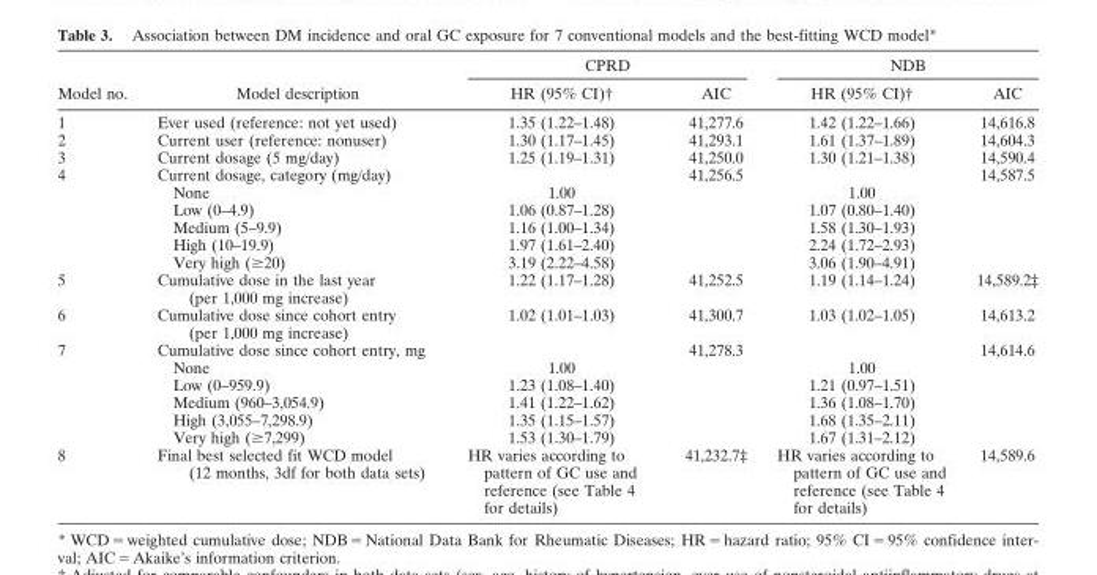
<table><thead><tr><td rowspan="2">Model no.</td><td rowspan="2">Model description</td><td colspan="2">CPRD</td><td colspan="2">NDB</td></tr><tr><td>HR (95% CI)†</td><td>AIC</td><td>HR (95% CI)†</td><td>AIC</td></tr></thead><tbody><tr><td>1</td><td>Ever used (reference: not yet used)</td><td>1.35 (1.22–1.48)</td><td>41,277.6</td><td>1.42 (1.22–1.66)</td><td>14,616.8</td></tr><tr><td>2</td><td>Current user (reference: nonuser)</td><td>1.30 (1.17–1.45)</td><td>41,293.1</td><td>1.61 (1.37–1.89)</td><td>14,604.3</td></tr><tr><td>3</td><td>Current dosage (5 mg/day)</td><td>1.25 (1.19–1.31)</td><td>41,250.0</td><td>1.30 (1.21–1.38)</td><td>14,590.4</td></tr><tr><td rowspan="6">4</td><td>Current dosage, category (mg/day)</td><td></td><td>41,256.5</td><td></td><td rowspan="6">14,587.5</td></tr><tr><td>None</td><td>1.00</td><td></td><td>1.00</td></tr><tr><td>Low (0–4.9)</td><td>1.06 (0.87–1.28)</td><td></td><td>1.07 (0.80–1.40)</td></tr><tr><td>Medium (5–9.9)</td><td>1.16 (1.00–1.34)</td><td></td><td>1.58 (1.30–1.93)</td></tr><tr><td>High (10–19.9)</td><td>1.97 (1.61–2.40)</td><td></td><td>2.24 (1.72–2.93)</td></tr><tr><td>Very high (≥20)</td><td>3.19 (2.22–4.58)</td><td></td><td>3.06 (1.90–4.91)</td></tr><tr><td>5</td><td>Cumulative dose in the last year (per 1,000 mg increase)</td><td>1.22 (1.17–1.28)</td><td>41,252.5</td><td>1.19 (1.14–1.24)</td><td>14,589.2‡</td></tr><tr><td>6</td><td>Cumulative dose since cohort entry (per 1,000 mg increase)</td><td>1.02 (1.01–1.03)</td><td>41,300.7</td><td>1.03 (1.02–1.05)</td><td>14,613.2</td></tr><tr><td rowspan="6">7</td><td>Cumulative dose since cohort entry, mg</td><td></td><td>41,278.3</td><td></td><td>14,614.6</td></tr><tr><td>None</td><td>1.00</td><td></td><td>1.00</td><td></td></tr><tr><td>Low (0–959.9)</td><td>1.23 (1.08–1.40)</td><td></td><td>1.21 (0.97–1.51)</td><td></td></tr><tr><td>Medium (960–3,054.9)</td><td>1.41 (1.22–1.62)</td><td></td><td>1.36 (1.08–1.70)</td><td></td></tr><tr><td>High (3,055–7,298.9)</td><td>1.35 (1.15–1.57)</td><td></td><td>1.68 (1.35–2.11)</td><td></td></tr><tr><td>Very high (≥7,299)</td><td>1.53 (1.30–1.79)</td><td></td><td>1.67 (1.31–2.12)</td><td></td></tr><tr><td>8</td><td>Final best selected fit WCD model (12 months, 3df for both data sets)</td><td>HR varies according to pattern of GC use and reference (see Table 4 for details)</td><td>41,232.7‡</td><td>HR varies according to pattern of GC use and reference (see Table 4 for details)</td><td>14,589.6</td></tr></tbody></table>